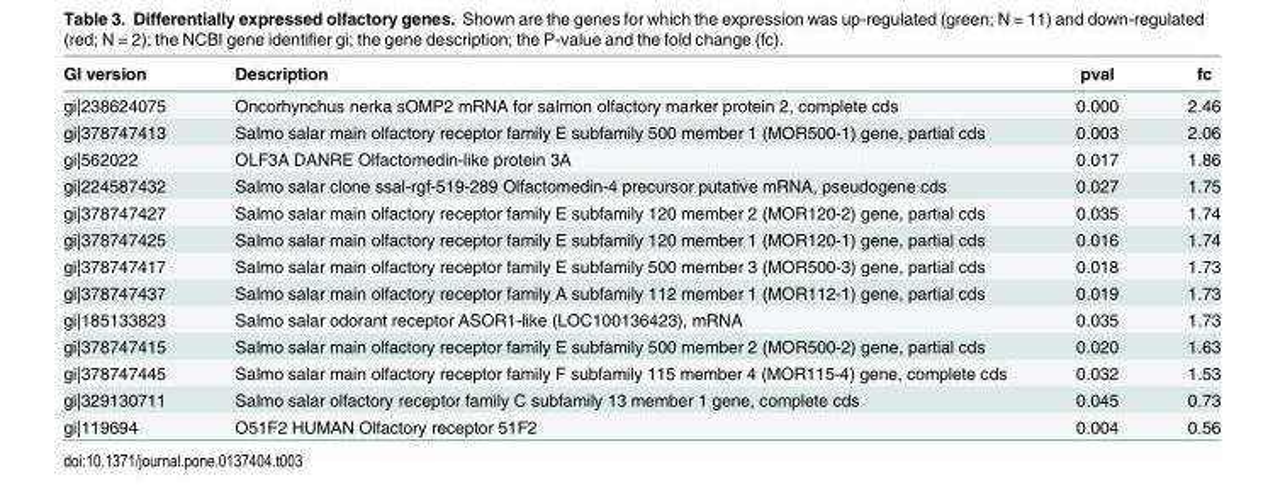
<table><thead><tr><td>GI version</td><td>Description</td><td>pval</td><td>fc</td></tr></thead><tbody><tr><td>gi|238624075</td><td>Oncorhynchus nerka sOMP2 mRNA for salmon olfactory marker protein 2, complete cds</td><td>0.000</td><td>2.46</td></tr><tr><td>gi|378747413</td><td>Salmo salar main olfactory receptor family E subfamily 500 member 1 (MOR500-1) gene, partial cds</td><td>0.003</td><td>2.06</td></tr><tr><td>gi|562022</td><td>OLF3A DANRE Olfactomedin-like protein 3A</td><td>0.017</td><td>1.86</td></tr><tr><td>gi|224587432</td><td>Salmo salar clone ssal-rgf-519-289 Olfactomedin-4 precursor putative mRNA, pseudogene cds</td><td>0.027</td><td>1.75</td></tr><tr><td>gi|378747427</td><td>Salmo salar main olfactory receptor family E subfamily 120 member 2 (MOR120-2) gene, partial cds</td><td>0.035</td><td>1.74</td></tr><tr><td>gi|378747425</td><td>Salmo salar main olfactory receptor family E subfamily 120 member 1 (MOR120-1) gene, partial cds</td><td>0.016</td><td>1.74</td></tr><tr><td>gi|378747417</td><td>Salmo salar main olfactory receptor family E subfamily 500 member 3 (MOR500-3) gene, partial cds</td><td>0.018</td><td>1.73</td></tr><tr><td>gi|378747437</td><td>Salmo salar main olfactory receptor family A subfamily 112 member 1 (MOR112-1) gene, partial cds</td><td>0.019</td><td>1.73</td></tr><tr><td>gi|185133823</td><td>Salmo salar odorant receptor ASOR1-like (LOC100136423), mRNA</td><td>0.035</td><td>1.73</td></tr><tr><td>gi|378747415</td><td>Salmo salar main olfactory receptor family E subfamily 500 member 2 (MOR500-2) gene, partial cds</td><td>0.020</td><td>1.63</td></tr><tr><td>gi|378747445</td><td>Salmo salar main olfactory receptor family F subfamily 115 member 4 (MOR115-4) gene, complete cds</td><td>0.032</td><td>1.53</td></tr><tr><td>gi|329130711</td><td>Salmo salar olfactory receptor family C subfamily 13 member 1 gene, complete cds</td><td>0.045</td><td>0.73</td></tr><tr><td>gi|119694</td><td>O51F2 HUMAN Olfactory receptor 51F2</td><td>0.004</td><td>0.56</td></tr></tbody></table>